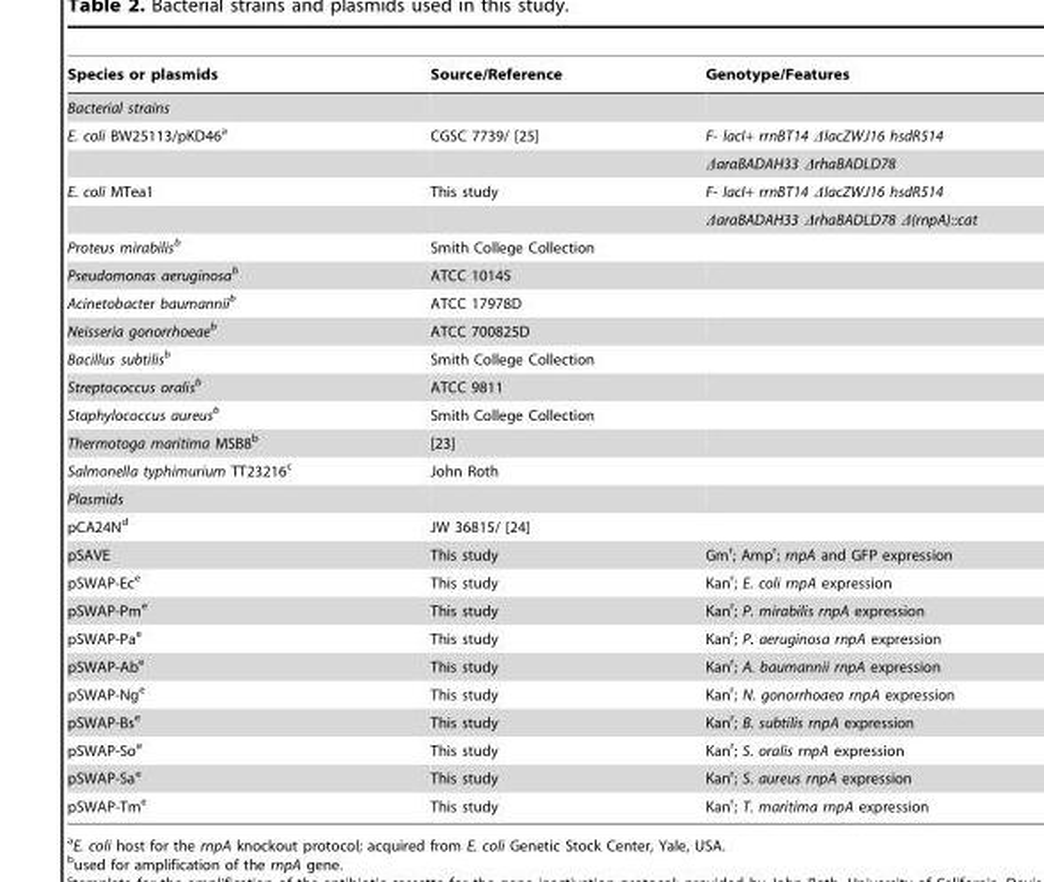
<table><thead><tr><td>Species or plasmids</td><td>Source/Reference</td><td>Genotype/Features</td></tr></thead><tbody><tr><td colspan="3">Bacterial strains</td></tr><tr><td rowspan="2">E. coli BW25113/pKD46<sup>a</sup></td><td>CGSC 7739/ [25]</td><td>F- lacI+ rrnBT14 ΔlacZWJ16 hsdR514</td></tr><tr><td></td><td>ΔaraBADAH33 ΔrhaBADLD78</td></tr><tr><td rowspan="2">E. coli MTea1</td><td>This study</td><td>F- lacI+ rrnBT14 ΔlacZWJ16 hsdR514</td></tr><tr><td></td><td>ΔaraBADAH33 ΔrhaBADLD78 Δ(rnpA)::cat</td></tr><tr><td>Proteus mirabilisb</td><td>Smith College Collection</td><td></td></tr><tr><td>Pseudomonas aeruginosab</td><td>ATCC 10145</td><td></td></tr><tr><td>Acinetobacter baumanniib</td><td>ATCC 17978D</td><td></td></tr><tr><td>Neisseria gonorrhoeaeb</td><td>ATCC 700825D</td><td></td></tr><tr><td>Bacillus subtilisb</td><td>Smith College Collection</td><td></td></tr><tr><td>Streptococcus oralisb</td><td>ATCC 9811</td><td></td></tr><tr><td>Staphylococcus aureusb</td><td>Smith College Collection</td><td></td></tr><tr><td>Thermotoga maritima MSB8<sup>b</sup></td><td>[23]</td><td></td></tr><tr><td>Salmonella typhimurium TT23216<sup>c</sup></td><td>John Roth</td><td></td></tr><tr><td colspan="3">Plasmids</td></tr><tr><td>pCA24N<sup>d</sup></td><td>JW 36815/ [24]</td><td></td></tr><tr><td>pSAVE</td><td>This study</td><td>Gm<sup>r</sup>; Amp<sup>r</sup>; rnpA and GFP expression</td></tr><tr><td>pSWAP-Ec<sup>e</sup></td><td>This study</td><td>Kan<sup>r</sup>; E. coli rnpA expression</td></tr><tr><td>pSWAP-Pm<sup>e</sup></td><td>This study</td><td>Kan<sup>r</sup>; P. mirabilis rnpA expression</td></tr><tr><td>pSWAP-Pa<sup>e</sup></td><td>This study</td><td>Kan<sup>r</sup>; P. aeruginosa rnpA expression</td></tr><tr><td>pSWAP-Ab<sup>e</sup></td><td>This study</td><td>Kan<sup>r</sup>; A. baumannii rnpA expression</td></tr><tr><td>pSWAP-Ng<sup>e</sup></td><td>This study</td><td>Kan<sup>r</sup>; N. gonorrhoaea rnpA expression</td></tr><tr><td>pSWAP-Bs<sup>e</sup></td><td>This study</td><td>Kan<sup>r</sup>; B. subtilis rnpA expression</td></tr><tr><td>pSWAP-So<sup>e</sup></td><td>This study</td><td>Kan<sup>r</sup>; S. oralis rnpA expression</td></tr><tr><td>pSWAP-Sa<sup>e</sup></td><td>This study</td><td>Kan<sup>r</sup>; S. aureus rnpA expression</td></tr><tr><td>pSWAP-Tm<sup>e</sup></td><td>This study</td><td>Kan<sup>r</sup>; T. maritima rnpA expression</td></tr></tbody></table>